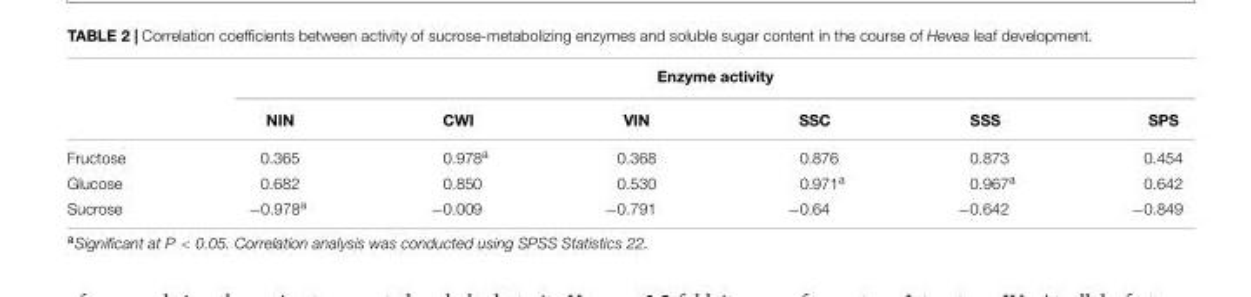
<table><thead><tr><td rowspan="2"></td><td colspan="6">Enzyme activity</td></tr><tr><td>NIN</td><td>CWI</td><td>VIN</td><td>SSC</td><td>SSS</td><td>SPS</td></tr></thead><tbody><tr><td>Fructose</td><td>0.365</td><td>0.978<sup>a</sup></td><td>0.368</td><td>0.876</td><td>0.873</td><td>0.454</td></tr><tr><td>Glucose</td><td>0.682</td><td>0.850</td><td>0.530</td><td>0.971<sup>a</sup></td><td>0.967<sup>a</sup></td><td>0.642</td></tr><tr><td>Sucrose</td><td>−0.978<sup>a</sup></td><td>−0.009</td><td>−0.791</td><td>−0.64</td><td>−0.642</td><td>−0.849</td></tr></tbody></table>